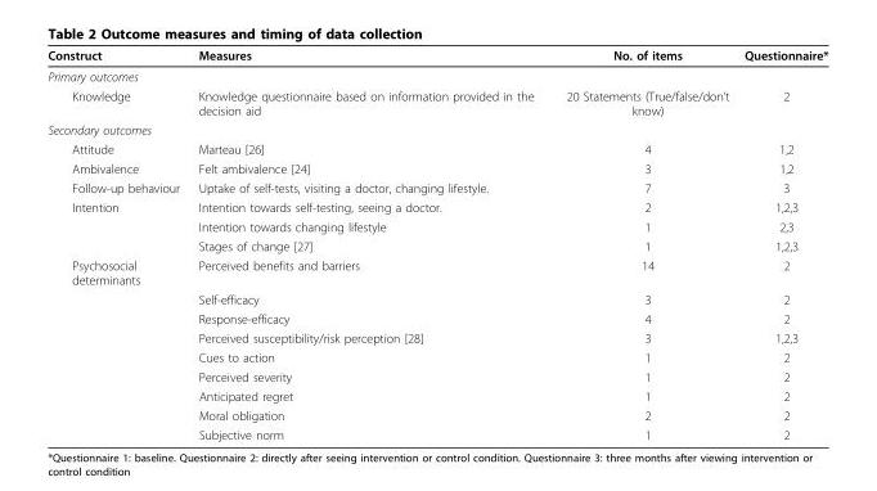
<table><thead><tr><td>Construct</td><td>Measures</td><td>No. of items</td><td>Questionnaire*</td></tr></thead><tbody><tr><td colspan="4">Primary outcomes</td></tr><tr><td>Knowledge</td><td>Knowledge questionnaire based on information provided in the decision aid</td><td>20 Statements (True/false/don’t know)</td><td>2</td></tr><tr><td colspan="4">Secondary outcomes</td></tr><tr><td>Attitude</td><td>Marteau [26]</td><td>4</td><td>1,2</td></tr><tr><td>Ambivalence</td><td>Felt ambivalence [24]</td><td>3</td><td>1,2</td></tr><tr><td>Follow-up behaviour</td><td>Uptake of self-tests, visiting a doctor, changing lifestyle.</td><td>7</td><td>3</td></tr><tr><td rowspan="3">Intention</td><td>Intention towards self-testing, seeing a doctor.</td><td>2</td><td>1,2,3</td></tr><tr><td>Intention towards changing lifestyle</td><td>1</td><td>2,3</td></tr><tr><td>Stages of change [27]</td><td>1</td><td>1,2,3</td></tr><tr><td rowspan="9">Psychosocial determinants</td><td>Perceived benefits and barriers</td><td>14</td><td>2</td></tr><tr><td>Self-efficacy</td><td>3</td><td>2</td></tr><tr><td>Response-efficacy</td><td>4</td><td>2</td></tr><tr><td>Perceived susceptibility/risk perception [28]</td><td>3</td><td>1,2,3</td></tr><tr><td>Cues to action</td><td>1</td><td>2</td></tr><tr><td>Perceived severity</td><td>1</td><td>2</td></tr><tr><td>Anticipated regret</td><td>1</td><td>2</td></tr><tr><td>Moral obligation</td><td>2</td><td>2</td></tr><tr><td>Subjective norm</td><td>1</td><td>2</td></tr></tbody></table>